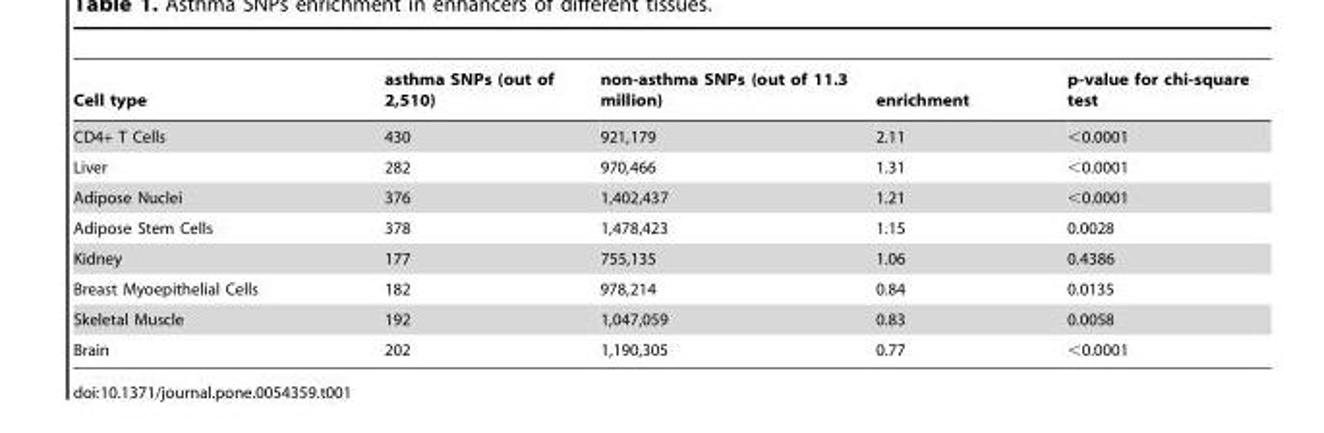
<table><thead><tr><td>Cell type</td><td>asthma SNPs (out of 2,510)</td><td>non-asthma SNPs (out of 11.3 million)</td><td>enrichment</td><td>p-value for chi-square test</td></tr></thead><tbody><tr><td>CD4+ T Cells</td><td>430</td><td>921,179</td><td>2.11</td><td>&lt;0.0001</td></tr><tr><td>Liver</td><td>282</td><td>970,466</td><td>1.31</td><td>&lt;0.0001</td></tr><tr><td>Adipose Nuclei</td><td>376</td><td>1,402,437</td><td>1.21</td><td>&lt;0.0001</td></tr><tr><td>Adipose Stem Cells</td><td>378</td><td>1,478,423</td><td>1.15</td><td>0.0028</td></tr><tr><td>Kidney</td><td>177</td><td>755,135</td><td>1.06</td><td>0.4386</td></tr><tr><td>Breast Myoepithelial Cells</td><td>182</td><td>978,214</td><td>0.84</td><td>0.0135</td></tr><tr><td>Skeletal Muscle</td><td>192</td><td>1,047,059</td><td>0.83</td><td>0.0058</td></tr><tr><td>Brain</td><td>202</td><td>1,190,305</td><td>0.77</td><td>&lt;0.0001</td></tr></tbody></table>